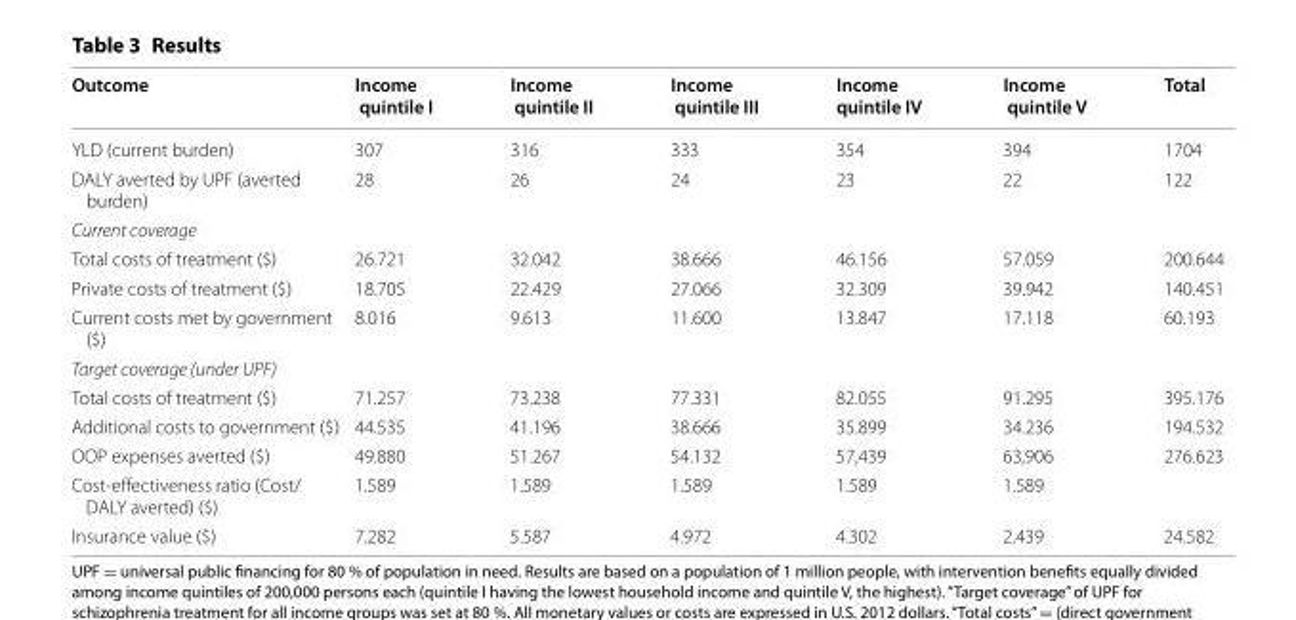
<table><thead><tr><td>Outcome</td><td>Income quintile I</td><td>Income quintile II</td><td>Income quintile III</td><td>Income quintile IV</td><td>Income quintile V</td><td>Total</td></tr></thead><tbody><tr><td>YLD (current burden)</td><td>307</td><td>316</td><td>333</td><td>354</td><td>394</td><td>1704</td></tr><tr><td>DALY averted by UPF (averted burden)</td><td>28</td><td>26</td><td>24</td><td>23</td><td>22</td><td>122</td></tr><tr><td colspan="7">Current coverage</td></tr><tr><td>Total costs of treatment ($)</td><td>26.721</td><td>32.042</td><td>38.666</td><td>46.156</td><td>57.059</td><td>200.644</td></tr><tr><td>Private costs of treatment ($)</td><td>18.705</td><td>22.429</td><td>27.066</td><td>32.309</td><td>39.942</td><td>140.451</td></tr><tr><td>Current costs met by government ($)</td><td>8.016</td><td>9.613</td><td>11.600</td><td>13.847</td><td>17.118</td><td>60.193</td></tr><tr><td colspan="7">Target coverage (under UPF)</td></tr><tr><td>Total costs of treatment ($)</td><td>71.257</td><td>73.238</td><td>77.331</td><td>82.055</td><td>91.295</td><td>395.176</td></tr><tr><td>Additional costs to government ($)</td><td>44.535</td><td>41.196</td><td>38.666</td><td>35.899</td><td>34.236</td><td>194.532</td></tr><tr><td>OOP expenses averted ($)</td><td>49.880</td><td>51.267</td><td>54.132</td><td>57,439</td><td>63,906</td><td>276.623</td></tr><tr><td>Cost-effectiveness ratio (Cost/ DALY averted) ($)</td><td>1.589</td><td>1.589</td><td>1.589</td><td>1.589</td><td>1.589</td><td></td></tr><tr><td>Insurance value ($)</td><td>7.282</td><td>5.587</td><td>4.972</td><td>4.302</td><td>2.439</td><td>24.582</td></tr></tbody></table>